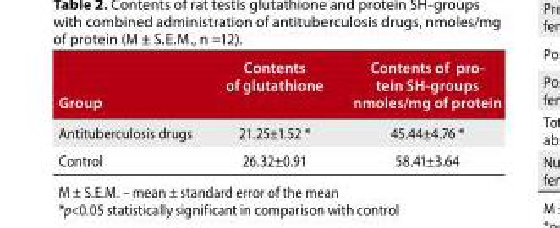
<table><thead><tr><td>Group</td><td>Contents of glutathione</td><td>Contents of pro- tein SH-groups nmoles/mg of protein</td></tr></thead><tbody><tr><td>Antituberculosis drugs</td><td>21.25±1.52 *</td><td>45.44±4.76 *</td></tr><tr><td>Control</td><td>26.32±0.91</td><td>58.41±3.64</td></tr></tbody></table>